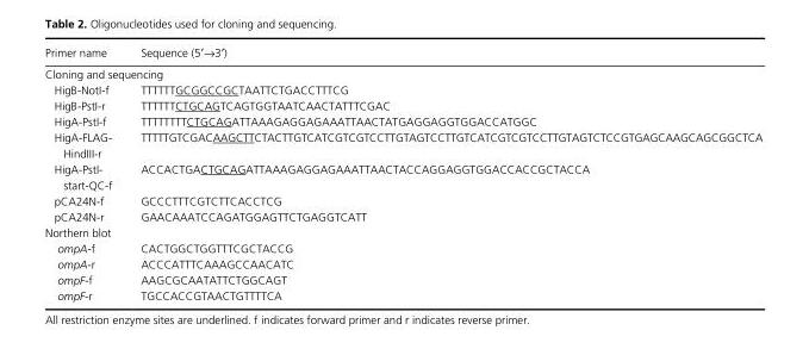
<table><thead><tr><td>Primer name</td><td>Sequence (5′→3′)</td></tr></thead><tbody><tr><td colspan="2">Cloning and sequencing</td></tr><tr><td>HigB- NotI- f</td><td>TTTTTTGCGGCCGCTAATTCTGACCTTTCG</td></tr><tr><td>HigB- PstI- r</td><td>TTTTTTCTGCAGTCAGTGGTAATCAACTATTTCGAC</td></tr><tr><td>HigA- PstI- f</td><td>TTTTTTTTCTGCAGATTAAAGAGGAGAAATTAACTATGAGGAGGTGGACCATGGC</td></tr><tr><td>HigA- FLAG- HindIII- r</td><td>TTTTTGTCGACAAGCTTCTACTTGTCATCGTCGTCCTTGTAGTCCTTGTCATCGTCGTCCTTGTAGTCTCCGTGAGCAAGCAGCGGCTCA</td></tr><tr><td>HigA- PstI- start- QC- f</td><td>ACCACTGACTGCAGATTAAAGAGGAGAAATTAACTACCAGGAGGTGGACCACCGCTACCA</td></tr><tr><td>pCA24N- f</td><td>GCCCTTTCGTCTTCACCTCG</td></tr><tr><td>pCA24N- r</td><td>GAACAAATCCAGATGGAGTTCTGAGGTCATT</td></tr><tr><td colspan="2">Northern blot</td></tr><tr><td>ompA- f</td><td>CACTGGCTGGTTTCGCTACCG</td></tr><tr><td>ompA- r</td><td>ACCCATTTCAAAGCCAACATC</td></tr><tr><td>ompF- f</td><td>AAGCGCAATATTCTGGCAGT</td></tr><tr><td>ompF- r</td><td>TGCCACCGTAACTGTTTTCA</td></tr></tbody></table>